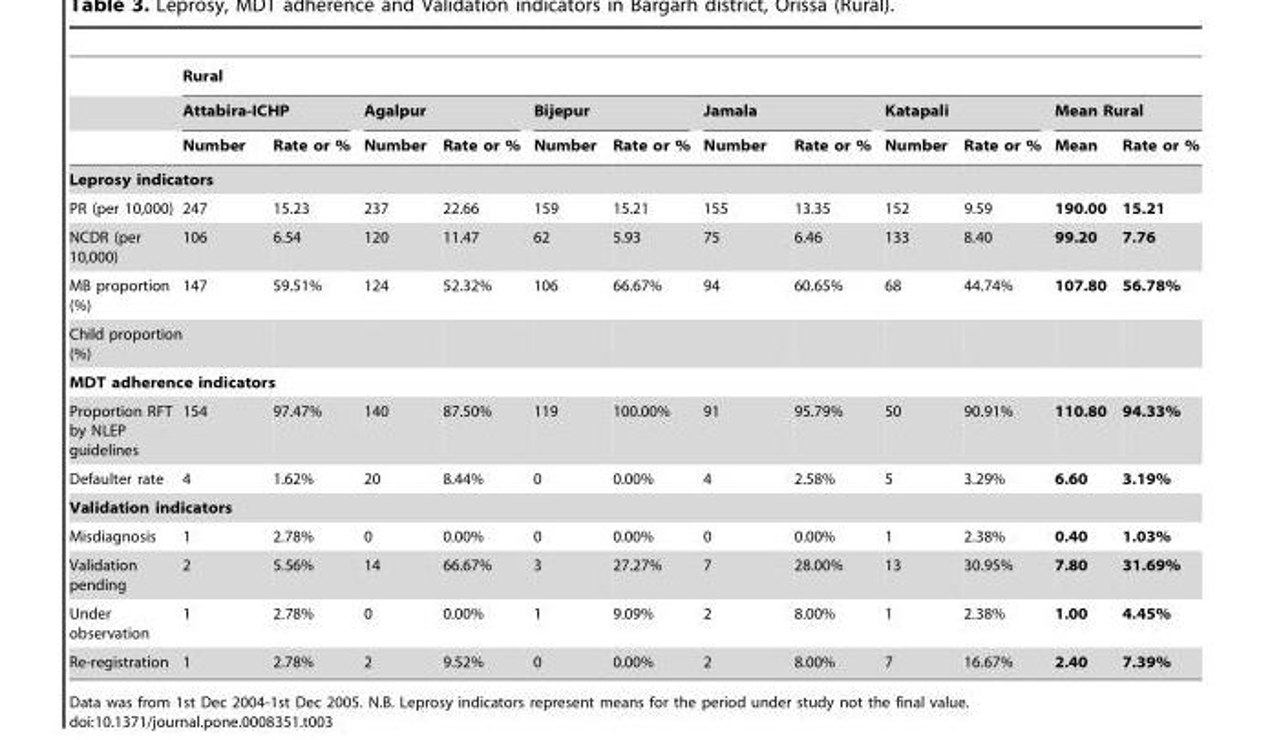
<table><thead><tr><td rowspan="3"></td><td colspan="12">Rural</td></tr><tr><td colspan="2">Attabira-ICHP</td><td colspan="2">Agalpur</td><td colspan="2">Bijepur</td><td colspan="2">Jamala</td><td colspan="2">Katapali</td><td colspan="2">Mean Rural</td></tr><tr><td>Number</td><td>Rate or %</td><td>Number</td><td>Rate or %</td><td>Number</td><td>Rate or %</td><td>Number</td><td>Rate or %</td><td>Number</td><td>Rate or %</td><td>Mean</td><td>Rate or %</td></tr></thead><tbody><tr><td colspan="13">Leprosy indicators</td></tr><tr><td>PR (per 10,000)</td><td>247</td><td>15.23</td><td>237</td><td>22.66</td><td>159</td><td>15.21</td><td>155</td><td>13.35</td><td>152</td><td>9.59</td><td>190.00</td><td>15.21</td></tr><tr><td>NCDR (per 10,000)</td><td>106</td><td>6.54</td><td>120</td><td>11.47</td><td>62</td><td>5.93</td><td>75</td><td>6.46</td><td>133</td><td>8.40</td><td>99.20</td><td>7.76</td></tr><tr><td>MB proportion (%)</td><td>147</td><td>59.51%</td><td>124</td><td>52.32%</td><td>106</td><td>66.67%</td><td>94</td><td>60.65%</td><td>68</td><td>44.74%</td><td>107.80</td><td>56.78%</td></tr><tr><td colspan="13">Child proportion (%)</td></tr><tr><td colspan="13">MDT adherence indicators</td></tr><tr><td>Proportion RFT by NLEP guidelines</td><td>154</td><td>97.47%</td><td>140</td><td>87.50%</td><td>119</td><td>100.00%</td><td>91</td><td>95.79%</td><td>50</td><td>90.91%</td><td>110.80</td><td>94.33%</td></tr><tr><td>Defaulter rate</td><td>4</td><td>1.62%</td><td>20</td><td>8.44%</td><td>0</td><td>0.00%</td><td>4</td><td>2.58%</td><td>5</td><td>3.29%</td><td>6.60</td><td>3.19%</td></tr><tr><td colspan="13">Validation indicators</td></tr><tr><td>Misdiagnosis</td><td>1</td><td>2.78%</td><td>0</td><td>0.00%</td><td>0</td><td>0.00%</td><td>0</td><td>0.00%</td><td>1</td><td>2.38%</td><td>0.40</td><td>1.03%</td></tr><tr><td>Validation pending</td><td>2</td><td>5.56%</td><td>14</td><td>66.67%</td><td>3</td><td>27.27%</td><td>7</td><td>28.00%</td><td>13</td><td>30.95%</td><td>7.80</td><td>31.69%</td></tr><tr><td>Under observation</td><td>1</td><td>2.78%</td><td>0</td><td>0.00%</td><td>1</td><td>9.09%</td><td>2</td><td>8.00%</td><td>1</td><td>2.38%</td><td>1.00</td><td>4.45%</td></tr><tr><td>Re-registration</td><td>1</td><td>2.78%</td><td>2</td><td>9.52%</td><td>0</td><td>0.00%</td><td>2</td><td>8.00%</td><td>7</td><td>16.67%</td><td>2.40</td><td>7.39%</td></tr></tbody></table>